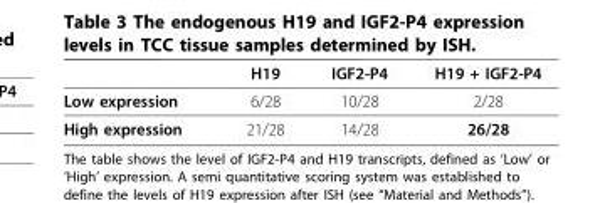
<table><thead><tr><td></td><td>H19</td><td>IGF2-P4</td><td>H19 + IGF2-P4</td></tr></thead><tbody><tr><td>Low expression</td><td>6/28</td><td>10/28</td><td>2/28</td></tr><tr><td>High expression</td><td>21/28</td><td>14/28</td><td>26/28</td></tr></tbody></table>